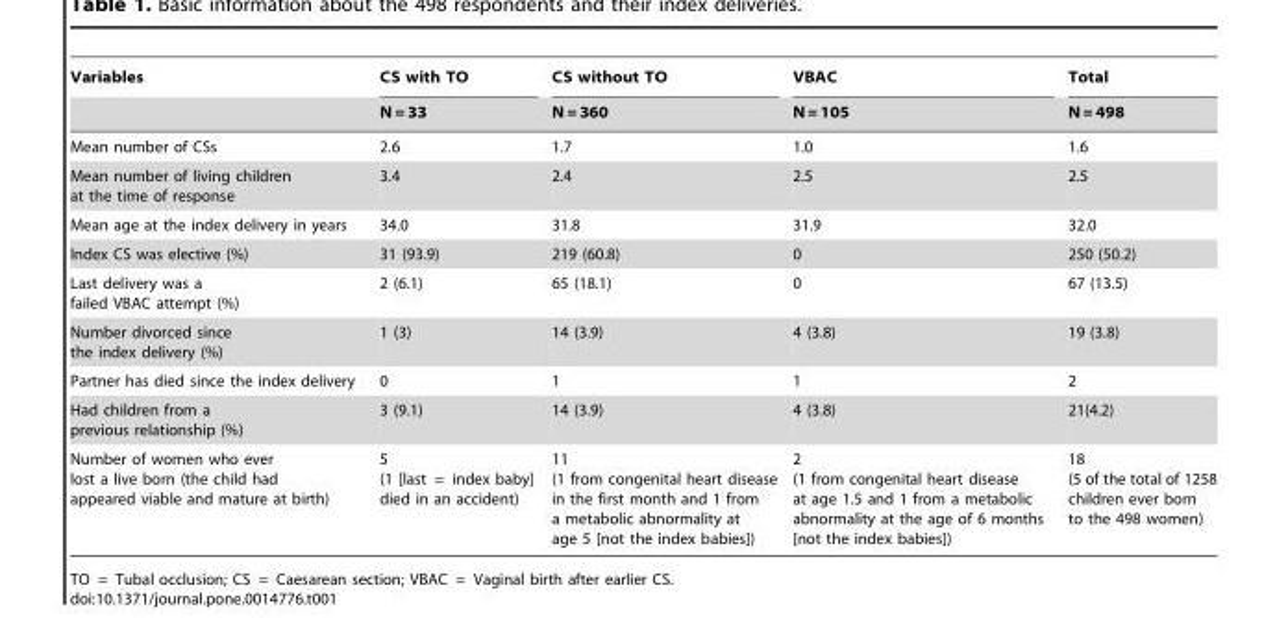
<table><thead><tr><td rowspan="2">Variables</td><td rowspan="2">CS with TO N = 33</td><td rowspan="2">CS without TO N = 360</td><td rowspan="2">VBAC N = 105</td><td rowspan="2">Total N = 498</td></tr><tr></tr></thead><tbody><tr><td>Mean number of CSs</td><td>2.6</td><td>1.7</td><td>1.0</td><td>1.6</td></tr><tr><td>Mean number of living children at the time of response</td><td>3.4</td><td>2.4</td><td>2.5</td><td>2.5</td></tr><tr><td>Mean age at the index delivery in years</td><td>34.0</td><td>31.8</td><td>31.9</td><td>32.0</td></tr><tr><td>Index CS was elective (%)</td><td>31 (93.9)</td><td>219 (60.8)</td><td>0</td><td>250 (50.2)</td></tr><tr><td>Last delivery was a failed VBAC attempt (%)</td><td>2 (6.1)</td><td>65 (18.1)</td><td>0</td><td>67 (13.5)</td></tr><tr><td>Number divorced since the index delivery (%)</td><td>1 (3)</td><td>14 (3.9)</td><td>4 (3.8)</td><td>19 (3.8)</td></tr><tr><td>Partner has died since the index delivery</td><td>0</td><td>1</td><td>1</td><td>2</td></tr><tr><td>Had children from a previous relationship (%)</td><td>3 (9.1)</td><td>14 (3.9)</td><td>4 (3.8)</td><td>21(4.2)</td></tr><tr><td>Number of women who ever lost a live born (the child had appeared viable and mature at birth)</td><td>5 (1 [last = index baby] died in an accident)</td><td>11 (1 from congenital heart disease in the first month and 1 from a metabolic abnormality at age 5 [not the index babies])</td><td>2 (1 from congenital heart disease at age 1.5 and 1 from a metabolic abnormality at the age of 6 months [not the index babies])</td><td>18 (5 of the total of 1258 children ever born to the 498 women)</td></tr></tbody></table>